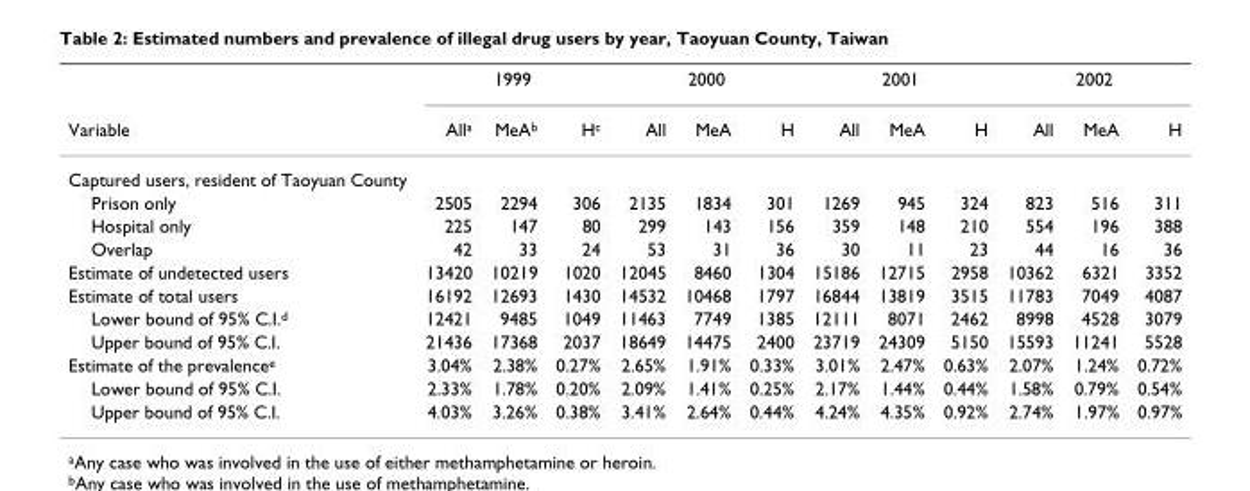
<table><thead><tr><td rowspan="2">Variable</td><td colspan="3">1999</td><td colspan="3">2000</td><td colspan="3">2001</td><td colspan="3">2002</td></tr><tr><td>All<sup>a</sup></td><td>MeA<sup>b</sup></td><td>H<sup>c</sup></td><td>All</td><td>MeA</td><td>H</td><td>All</td><td>MeA</td><td>H</td><td>All</td><td>MeA</td><td>H</td></tr></thead><tbody><tr><td colspan="13">Captured users, resident of Taoyuan County</td></tr><tr><td>Prison only</td><td>2505</td><td>2294</td><td>306</td><td>2135</td><td>1834</td><td>301</td><td>1269</td><td>945</td><td>324</td><td>823</td><td>516</td><td>311</td></tr><tr><td>Hospital only</td><td>225</td><td>147</td><td>80</td><td>299</td><td>143</td><td>156</td><td>359</td><td>148</td><td>210</td><td>554</td><td>196</td><td>388</td></tr><tr><td>Overlap</td><td>42</td><td>33</td><td>24</td><td>53</td><td>31</td><td>36</td><td>30</td><td>11</td><td>23</td><td>44</td><td>16</td><td>36</td></tr><tr><td>Estimate of undetected users</td><td>13420</td><td>10219</td><td>1020</td><td>12045</td><td>8460</td><td>1304</td><td>15186</td><td>12715</td><td>2958</td><td>10362</td><td>6321</td><td>3352</td></tr><tr><td>Estimate of total users</td><td>16192</td><td>12693</td><td>1430</td><td>14532</td><td>10468</td><td>1797</td><td>16844</td><td>13819</td><td>3515</td><td>11783</td><td>7049</td><td>4087</td></tr><tr><td>Lower bound of 95% C.I.<sup>d</sup></td><td>12421</td><td>9485</td><td>1049</td><td>11463</td><td>7749</td><td>1385</td><td>12111</td><td>8071</td><td>2462</td><td>8998</td><td>4528</td><td>3079</td></tr><tr><td>Upper bound of 95% C.I.</td><td>21436</td><td>17368</td><td>2037</td><td>18649</td><td>14475</td><td>2400</td><td>23719</td><td>24309</td><td>5150</td><td>15593</td><td>11241</td><td>5528</td></tr><tr><td>Estimate of the prevalence<sup>e</sup></td><td>3.04%</td><td>2.38%</td><td>0.27%</td><td>2.65%</td><td>1.91%</td><td>0.33%</td><td>3.01%</td><td>2.47%</td><td>0.63%</td><td>2.07%</td><td>1.24%</td><td>0.72%</td></tr><tr><td>Lower bound of 95% C.I.</td><td>2.33%</td><td>1.78%</td><td>0.20%</td><td>2.09%</td><td>1.41%</td><td>0.25%</td><td>2.17%</td><td>1.44%</td><td>0.44%</td><td>1.58%</td><td>0.79%</td><td>0.54%</td></tr><tr><td>Upper bound of 95% C.I.</td><td>4.03%</td><td>3.26%</td><td>0.38%</td><td>3.41%</td><td>2.64%</td><td>0.44%</td><td>4.24%</td><td>4.35%</td><td>0.92%</td><td>2.74%</td><td>1.97%</td><td>0.97%</td></tr></tbody></table>